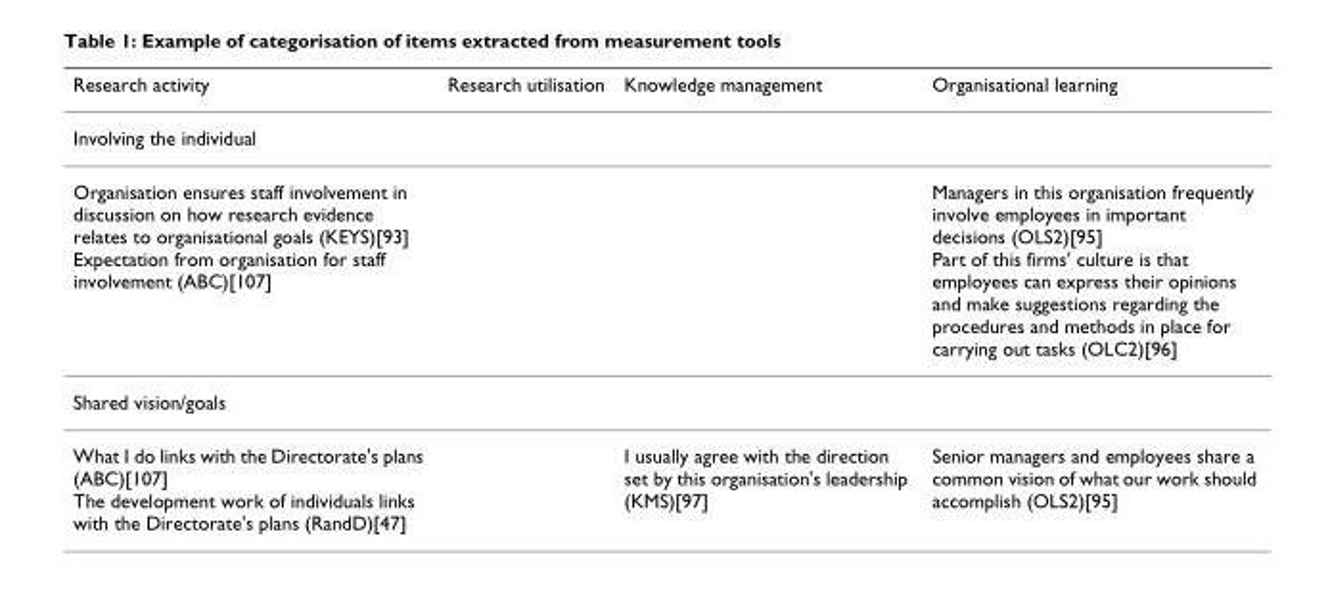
<table><thead><tr><td>Research activity</td><td>Research utilisation</td><td>Knowledge management</td><td>Organisational learning</td></tr></thead><tbody><tr><td colspan="4">Involving the individual</td></tr><tr><td>Organisation ensures staff involvement in discussion on how research evidence relates to organisational goals (KEYS)[93] Expectation from organisation for staff involvement (ABC)[107]</td><td></td><td></td><td>Managers in this organisation frequently involve employees in important decisions (OLS2)[95] Part of this firms&#x27; culture is that employees can express their opinions and make suggestions regarding the procedures and methods in place for carrying out tasks (OLC2)[96]</td></tr><tr><td colspan="4">Shared vision/goals</td></tr><tr><td>What I do links with the Directorate&#x27;s plans (ABC)[107] The development work of individuals links with the Directorate&#x27;s plans (RandD)[47]</td><td></td><td>I usually agree with the direction set by this organisation&#x27;s leadership (KMS)[97]</td><td>Senior managers and employees share a common vision of what our work should accomplish (OLS2)[95]</td></tr></tbody></table>